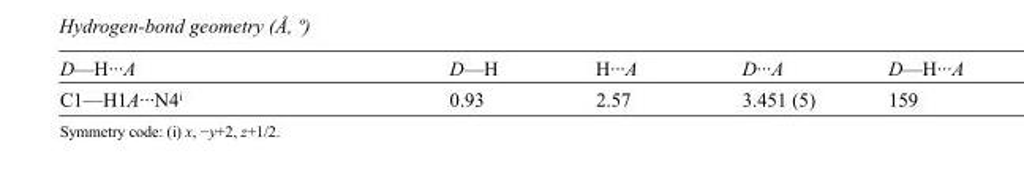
<table><tbody><tr><td>D—H···A</td><td>D—H</td><td>H···A</td><td>D···A</td><td>D—H···A</td></tr><tr><td>C1—H1A···N4<sup>i</sup></td><td>0.93</td><td>2.57</td><td>3.451 (5)</td><td>159</td></tr></tbody></table>